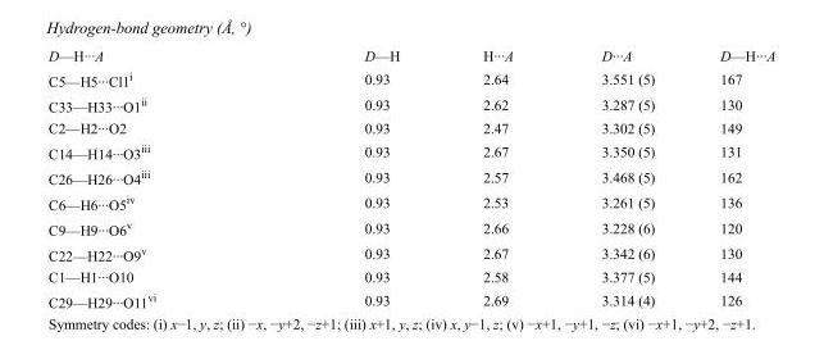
<table><tbody><tr><td>D—H···A</td><td>D—H</td><td>H···A</td><td>D···A</td><td>D—H···A</td></tr><tr><td>C5—H5···Cl1<sup>i</sup></td><td>0.93</td><td>2.64</td><td>3.551 (5)</td><td>167</td></tr><tr><td>C33—H33···O1<sup>ii</sup></td><td>0.93</td><td>2.62</td><td>3.287 (5)</td><td>130</td></tr><tr><td>C2—H2···O2</td><td>0.93</td><td>2.47</td><td>3.302 (5)</td><td>149</td></tr><tr><td>C14—H14···O3<sup>iii</sup></td><td>0.93</td><td>2.67</td><td>3.350 (5)</td><td>131</td></tr><tr><td>C26—H26···O4<sup>iii</sup></td><td>0.93</td><td>2.57</td><td>3.468 (5)</td><td>162</td></tr><tr><td>C6—H6···O5<sup>iv</sup></td><td>0.93</td><td>2.53</td><td>3.261 (5)</td><td>136</td></tr><tr><td>C9—H9···O6<sup>v</sup></td><td>0.93</td><td>2.66</td><td>3.228 (6)</td><td>120</td></tr><tr><td>C22—H22···O9<sup>v</sup></td><td>0.93</td><td>2.67</td><td>3.342 (6)</td><td>130</td></tr><tr><td>C1—H1···O10</td><td>0.93</td><td>2.58</td><td>3.377 (5)</td><td>144</td></tr><tr><td>C29—H29···O11<sup>vi</sup></td><td>0.93</td><td>2.69</td><td>3.314 (4)</td><td>126</td></tr></tbody></table>